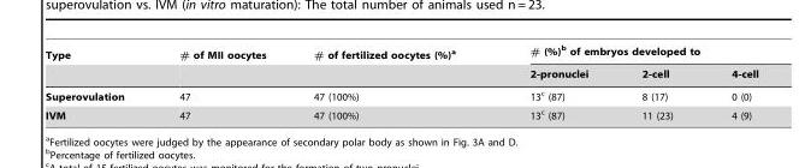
<table><thead><tr><td rowspan="2">Type</td><td rowspan="2"># of MII oocytes</td><td rowspan="2"># of fertilized oocytes (%)<sup>a</sup></td><td colspan="3"># (%)<sup>b</sup> of embryos developed to</td></tr><tr><td>2-pronuclei</td><td>2-cell</td><td>4-cell</td></tr></thead><tbody><tr><td>Superovulation</td><td>47</td><td>47 (100%)</td><td>13<sup>c</sup> (87)</td><td>8 (17)</td><td>0 (0)</td></tr><tr><td>IVM</td><td>47</td><td>47 (100%)</td><td>13<sup>c</sup> (87)</td><td>11 (23)</td><td>4 (9)</td></tr></tbody></table>